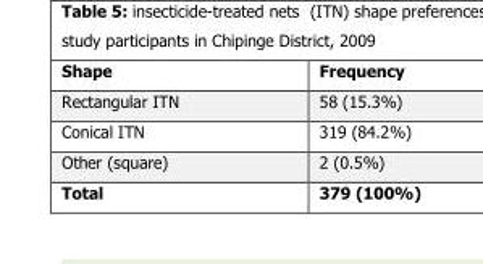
<table><thead><tr><td>Shape</td><td>Frequency</td></tr></thead><tbody><tr><td>Rectangular ITN</td><td>58 (15.3%)</td></tr><tr><td>Conical ITN</td><td>319 (84.2%)</td></tr><tr><td>Other (square)</td><td>2 (0.5%)</td></tr><tr><td>Total</td><td>379 (100%)</td></tr></tbody></table>